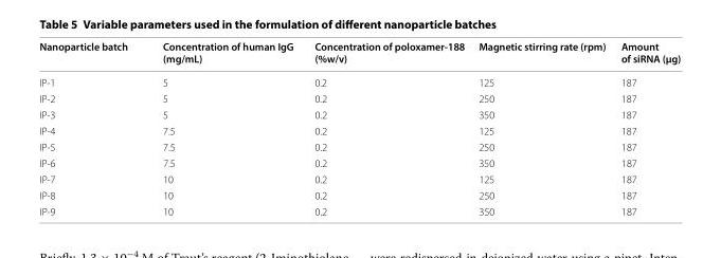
<table><thead><tr><td>Nanoparticle batch</td><td>Concentration of human IgG (mg/mL)</td><td>Concentration of poloxamer‑188 (%w/v)</td><td>Magnetic stirring rate (rpm)</td><td>Amount of siRNA (µg)</td></tr></thead><tbody><tr><td>IP-1</td><td>5</td><td>0.2</td><td>125</td><td>187</td></tr><tr><td>IP-2</td><td>5</td><td>0.2</td><td>250</td><td>187</td></tr><tr><td>IP-3</td><td>5</td><td>0.2</td><td>350</td><td>187</td></tr><tr><td>IP-4</td><td>7.5</td><td>0.2</td><td>125</td><td>187</td></tr><tr><td>IP-5</td><td>7.5</td><td>0.2</td><td>250</td><td>187</td></tr><tr><td>IP-6</td><td>7.5</td><td>0.2</td><td>350</td><td>187</td></tr><tr><td>IP-7</td><td>10</td><td>0.2</td><td>125</td><td>187</td></tr><tr><td>IP-8</td><td>10</td><td>0.2</td><td>250</td><td>187</td></tr><tr><td>IP-9</td><td>10</td><td>0.2</td><td>350</td><td>187</td></tr></tbody></table>